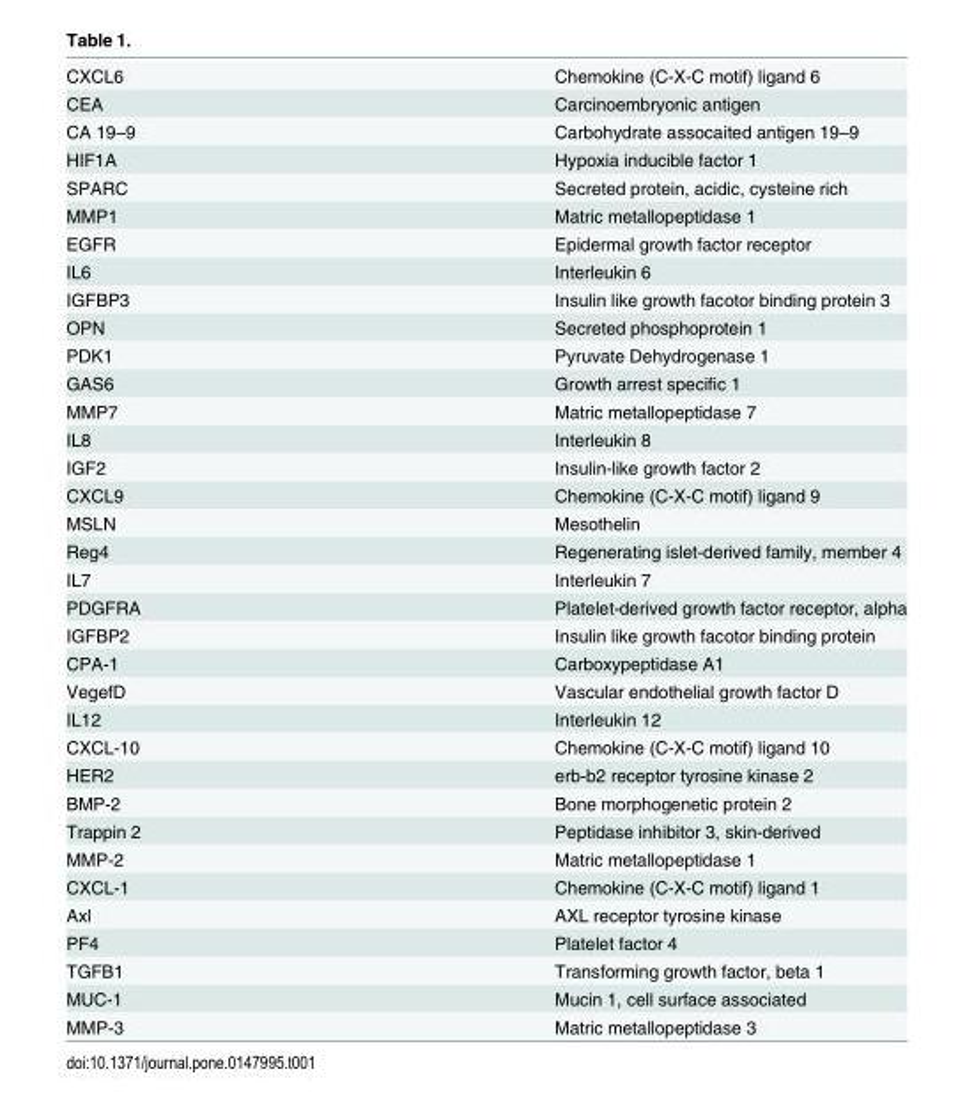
<table><tbody><tr><td>CXCL6</td><td>Chemokine (C-X-C motif) ligand 6</td></tr><tr><td>CEA</td><td>Carcinoembryonic antigen</td></tr><tr><td>CA 19–9</td><td>Carbohydrate assocaited antigen 19–9</td></tr><tr><td>HIF1A</td><td>Hypoxia inducible factor 1</td></tr><tr><td>SPARC</td><td>Secreted protein, acidic, cysteine rich</td></tr><tr><td>MMP1</td><td>Matric metallopeptidase 1</td></tr><tr><td>EGFR</td><td>Epidermal growth factor receptor</td></tr><tr><td>IL6</td><td>Interleukin 6</td></tr><tr><td>IGFBP3</td><td>Insulin like growth facotor binding protein 3</td></tr><tr><td>OPN</td><td>Secreted phosphoprotein 1</td></tr><tr><td>PDK1</td><td>Pyruvate Dehydrogenase 1</td></tr><tr><td>GAS6</td><td>Growth arrest specific 1</td></tr><tr><td>MMP7</td><td>Matric metallopeptidase 7</td></tr><tr><td>IL8</td><td>Interleukin 8</td></tr><tr><td>IGF2</td><td>Insulin-like growth factor 2</td></tr><tr><td>CXCL9</td><td>Chemokine (C-X-C motif) ligand 9</td></tr><tr><td>MSLN</td><td>Mesothelin</td></tr><tr><td>Reg4</td><td>Regenerating islet-derived family, member 4</td></tr><tr><td>IL7</td><td>Interleukin 7</td></tr><tr><td>PDGFRA</td><td>Platelet-derived growth factor receptor, alpha</td></tr><tr><td>IGFBP2</td><td>Insulin like growth facotor binding protein</td></tr><tr><td>CPA-1</td><td>Carboxypeptidase A1</td></tr><tr><td>VegefD</td><td>Vascular endothelial growth factor D</td></tr><tr><td>IL12</td><td>Interleukin 12</td></tr><tr><td>CXCL-10</td><td>Chemokine (C-X-C motif) ligand 10</td></tr><tr><td>HER2</td><td>erb-b2 receptor tyrosine kinase 2</td></tr><tr><td>BMP-2</td><td>Bone morphogenetic protein 2</td></tr><tr><td>Trappin 2</td><td>Peptidase inhibitor 3, skin-derived</td></tr><tr><td>MMP-2</td><td>Matric metallopeptidase 1</td></tr><tr><td>CXCL-1</td><td>Chemokine (C-X-C motif) ligand 1</td></tr><tr><td>Axl</td><td>AXL receptor tyrosine kinase</td></tr><tr><td>PF4</td><td>Platelet factor 4</td></tr><tr><td>TGFB1</td><td>Transforming growth factor, beta 1</td></tr><tr><td>MUC-1</td><td>Mucin 1, cell surface associated</td></tr><tr><td>MMP-3</td><td>Matric metallopeptidase 3</td></tr></tbody></table>